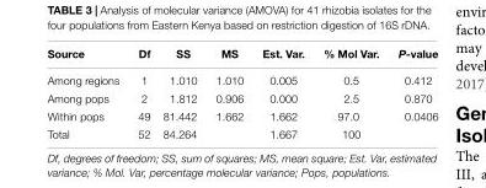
<table><thead><tr><td>Source</td><td>Df</td><td>SS</td><td>MS</td><td>Est. Var.</td><td>% Mol Var.</td><td>P-value</td></tr></thead><tbody><tr><td>Among regions</td><td>1</td><td>1.010</td><td>1.010</td><td>0.005</td><td>0.5</td><td>0.412</td></tr><tr><td>Among pops</td><td>2</td><td>1.812</td><td>0.906</td><td>0.000</td><td>2.5</td><td>0.870</td></tr><tr><td>Within pops</td><td>49</td><td>81.442</td><td>1.662</td><td>1.662</td><td>97.0</td><td>0.0406</td></tr><tr><td>Total</td><td>52</td><td>84.264</td><td></td><td>1.667</td><td>100</td><td></td></tr></tbody></table>